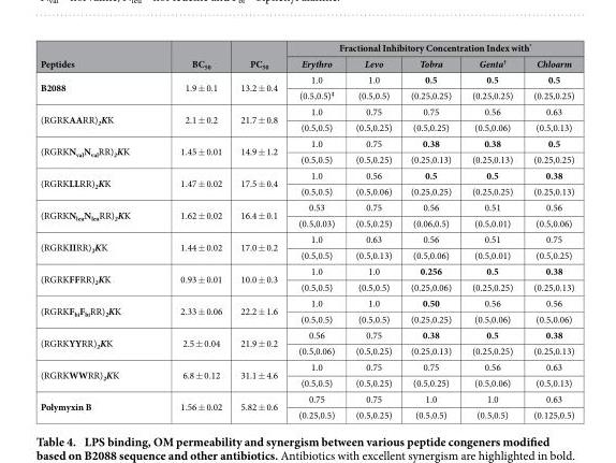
<table><thead><tr><td rowspan="2">Peptides</td><td rowspan="2">BC<sub>50</sub></td><td rowspan="2">PC<sub>50</sub></td><td colspan="5">Fractional Inhibitory Concentration Index with*</td></tr><tr><td>Erythro</td><td>Levo</td><td>Tobra</td><td>Genta†</td><td>Chloarm</td></tr></thead><tbody><tr><td rowspan="2">B2088</td><td rowspan="2">1.9 ± 0.1</td><td rowspan="2">13.2 ± 0.4</td><td>1.0</td><td>1.0</td><td>0.5</td><td>0.5</td><td>0.5</td></tr><tr><td>(0.5,0.5)‡</td><td>(0.5,0.5)</td><td>(0.25,0.25)</td><td>(0.25,0.25)</td><td>(0.25,0.25)</td></tr><tr><td rowspan="2">(RGRKAARR)<sub>2</sub>KK</td><td rowspan="2">2.1 ± 0.2</td><td rowspan="2">21.7 ± 0.8</td><td>1.0</td><td>0.75</td><td>0.75</td><td>0.56</td><td>0.63</td></tr><tr><td>(0.5,0.5)</td><td>(0.5,0.25)</td><td>(0.5,0.25)</td><td>(0.5,0.06)</td><td>(0.5,0.13)</td></tr><tr><td rowspan="2">(RGRKN<sub>val</sub>N<sub>val</sub>RR)<sub>2</sub>KK</td><td rowspan="2">1.45 ± 0.01</td><td rowspan="2">14.9 ± 1.2</td><td>1.0</td><td>0.75</td><td>0.38</td><td>0.38</td><td>0.5</td></tr><tr><td>(0.5,0.5)</td><td>(0.5,0.25)</td><td>(0.25,0.13)</td><td>(0.25,0.13)</td><td>(0.25,0.25)</td></tr><tr><td rowspan="2">(RGRKLLRR)<sub>2</sub>KK</td><td rowspan="2">1.47 ± 0.02</td><td rowspan="2">17.5 ± 0.4</td><td>1.0</td><td>0.56</td><td>0.5</td><td>0.5</td><td>0.38</td></tr><tr><td>(0.5,0.5)</td><td>(0.5,0.06)</td><td>(0.25,0.25)</td><td>(0.25,0.25)</td><td>(0.25,0.13)</td></tr><tr><td rowspan="2">(RGRKN<sub>leu</sub>N<sub>leu</sub>RR)<sub>2</sub>KK</td><td rowspan="2">1.62 ± 0.02</td><td rowspan="2">16.4 ± 0.1</td><td>0.53</td><td>0.75</td><td>0.56</td><td>0.51</td><td>0.56</td></tr><tr><td>(0.5,0.03)</td><td>(0.5,0.25)</td><td>(0.06,0.5)</td><td>(0.5,0.01)</td><td>(0.5,0.06)</td></tr><tr><td rowspan="2">(RGRKIIRR)<sub>2</sub>KK</td><td rowspan="2">1.44 ± 0.02</td><td rowspan="2">17.0 ± 0.2</td><td>1.0</td><td>0.63</td><td>0.56</td><td>0.51</td><td>0.75</td></tr><tr><td>(0.5,0.5)</td><td>(0.5,0.13)</td><td>(0.5,0.06)</td><td>(0.5,0.01)</td><td>(0.5,0.25)</td></tr><tr><td rowspan="2">(RGRKFFRR)<sub>2</sub>KK</td><td rowspan="2">0.93 ± 0.01</td><td rowspan="2">10.0 ± 0.3</td><td>1.0</td><td>1.0</td><td>0.256</td><td>0.5</td><td>0.38</td></tr><tr><td>(0.5,0.5)</td><td>(0.5,0.5)</td><td>(0.25,0.06)</td><td>(0.25,0.25)</td><td>(0.25,0.13)</td></tr><tr><td rowspan="2">(RGRKF<sub>bi</sub>F<sub>bi</sub>RR)<sub>2</sub>KK</td><td rowspan="2">2.33 ± 0.06</td><td rowspan="2">22.2 ± 1.6</td><td>1.0</td><td>1.0</td><td>0.50</td><td>0.56</td><td>0.56</td></tr><tr><td>(0.5,0.5)</td><td>(0.5,0.5)</td><td>(0.25,0.25)</td><td>(0.5,0.06)</td><td>(0.5,0.06)</td></tr><tr><td rowspan="2">(RGRKYYRR)<sub>2</sub>KK</td><td rowspan="2">2.5 ± 0.04</td><td rowspan="2">21.9 ± 0.2</td><td>0.56</td><td>0.75</td><td>0.38</td><td>0.5</td><td>0.38</td></tr><tr><td>(0.5,0.06)</td><td>(0.5,0.25)</td><td>(0.25,0.13)</td><td>(0.25,0.25)</td><td>(0.25,0.13)</td></tr><tr><td rowspan="2">(RGRKWWRR)<sub>2</sub>KK</td><td rowspan="2">6.8 ± 0.12</td><td rowspan="2">31.1 ± 4.6</td><td>1.0</td><td>0.75</td><td>0.75</td><td>0.56</td><td>0.63</td></tr><tr><td>(0.5,0.5)</td><td>(0.5,0.25)</td><td>(0.5,0.25)</td><td>(0.5,0.06)</td><td>(0.5,0.13)</td></tr><tr><td rowspan="2">Polymyxin B</td><td rowspan="2">1.56 ± 0.02</td><td rowspan="2">5.82 ± 0.6</td><td>0.75</td><td>0.75</td><td>1.0</td><td>1.0</td><td>0.63</td></tr><tr><td>(0.25,0.5)</td><td>(0.5,0.25)</td><td>(0.5,0.5)</td><td>(0.5,0.5)</td><td>(0.125,0.5)</td></tr></tbody></table>